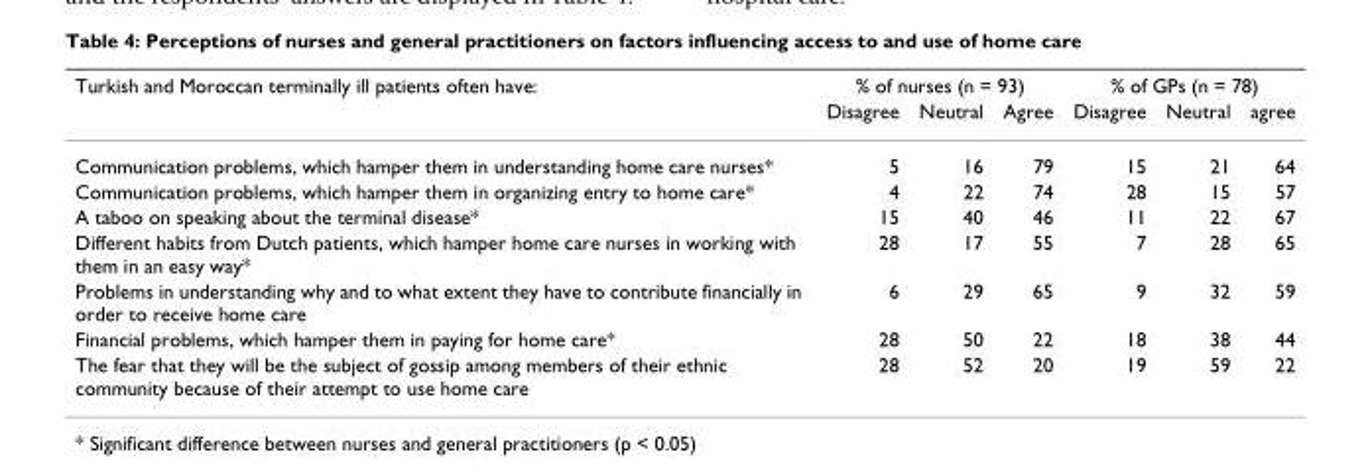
<table><thead><tr><td rowspan="2">Turkish and Moroccan terminally ill patients often have:</td><td colspan="3">% of nurses (n = 93)</td><td colspan="3">% of GPs (n = 78)</td></tr><tr><td>Disagree</td><td>Neutral</td><td>Agree</td><td>Disagree</td><td>Neutral</td><td>agree</td></tr></thead><tbody><tr><td>Communication problems, which hamper them in understanding home care nurses*</td><td>5</td><td>16</td><td>79</td><td>15</td><td>21</td><td>64</td></tr><tr><td>Communication problems, which hamper them in organizing entry to home care*</td><td>4</td><td>22</td><td>74</td><td>28</td><td>15</td><td>57</td></tr><tr><td>A taboo on speaking about the terminal disease*</td><td>15</td><td>40</td><td>46</td><td>11</td><td>22</td><td>67</td></tr><tr><td>Different habits from Dutch patients, which hamper home care nurses in working with them in an easy way*</td><td>28</td><td>17</td><td>55</td><td>7</td><td>28</td><td>65</td></tr><tr><td>Problems in understanding why and to what extent they have to contribute financially in order to receive home care</td><td>6</td><td>29</td><td>65</td><td>9</td><td>32</td><td>59</td></tr><tr><td>Financial problems, which hamper them in paying for home care*</td><td>28</td><td>50</td><td>22</td><td>18</td><td>38</td><td>44</td></tr><tr><td>The fear that they will be the subject of gossip among members of their ethnic community because of their attempt to use home care</td><td>28</td><td>52</td><td>20</td><td>19</td><td>59</td><td>22</td></tr></tbody></table>